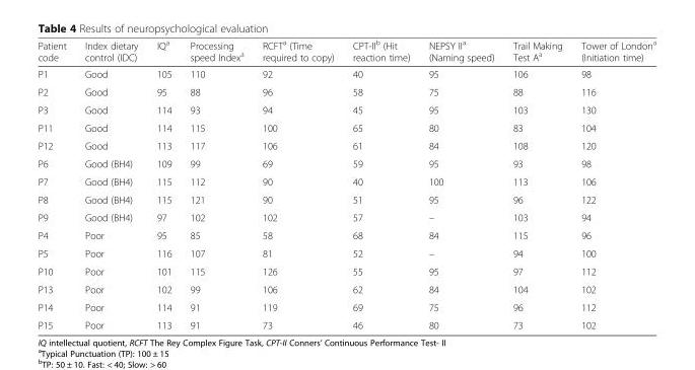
<table><thead><tr><td>Patient code</td><td>Index dietary control (IDC)</td><td>IQ<sup>a</sup></td><td>Processing speed Index<sup>a</sup></td><td>RCFT<sup>a</sup> (Time required to copy)</td><td>CPT-II<sup>b</sup> (Hit reaction time)</td><td>NEPSY II<sup>a</sup> (Naming speed)</td><td>Trail Making Test A<sup>a</sup></td><td>Tower of London<sup>a</sup> (Initiation time)</td></tr></thead><tbody><tr><td>P1</td><td>Good</td><td>105</td><td>110</td><td>92</td><td>40</td><td>95</td><td>106</td><td>98</td></tr><tr><td>P2</td><td>Good</td><td>95</td><td>88</td><td>96</td><td>58</td><td>75</td><td>88</td><td>116</td></tr><tr><td>P3</td><td>Good</td><td>114</td><td>93</td><td>94</td><td>45</td><td>95</td><td>103</td><td>130</td></tr><tr><td>P11</td><td>Good</td><td>114</td><td>115</td><td>100</td><td>65</td><td>80</td><td>83</td><td>104</td></tr><tr><td>P12</td><td>Good</td><td>113</td><td>117</td><td>106</td><td>61</td><td>84</td><td>108</td><td>120</td></tr><tr><td>P6</td><td>Good (BH4)</td><td>109</td><td>99</td><td>69</td><td>59</td><td>95</td><td>93</td><td>98</td></tr><tr><td>P7</td><td>Good (BH4)</td><td>115</td><td>112</td><td>90</td><td>40</td><td>100</td><td>113</td><td>106</td></tr><tr><td>P8</td><td>Good (BH4)</td><td>115</td><td>121</td><td>90</td><td>51</td><td>95</td><td>96</td><td>122</td></tr><tr><td>P9</td><td>Good (BH4)</td><td>97</td><td>102</td><td>102</td><td>57</td><td>–</td><td>103</td><td>94</td></tr><tr><td>P4</td><td>Poor</td><td>95</td><td>85</td><td>58</td><td>68</td><td>84</td><td>115</td><td>96</td></tr><tr><td>P5</td><td>Poor</td><td>116</td><td>107</td><td>81</td><td>52</td><td>–</td><td>94</td><td>100</td></tr><tr><td>P10</td><td>Poor</td><td>101</td><td>115</td><td>126</td><td>55</td><td>95</td><td>97</td><td>112</td></tr><tr><td>P13</td><td>Poor</td><td>102</td><td>99</td><td>106</td><td>62</td><td>84</td><td>104</td><td>102</td></tr><tr><td>P14</td><td>Poor</td><td>114</td><td>91</td><td>119</td><td>69</td><td>75</td><td>96</td><td>112</td></tr><tr><td>P15</td><td>Poor</td><td>113</td><td>91</td><td>73</td><td>46</td><td>80</td><td>73</td><td>102</td></tr></tbody></table>